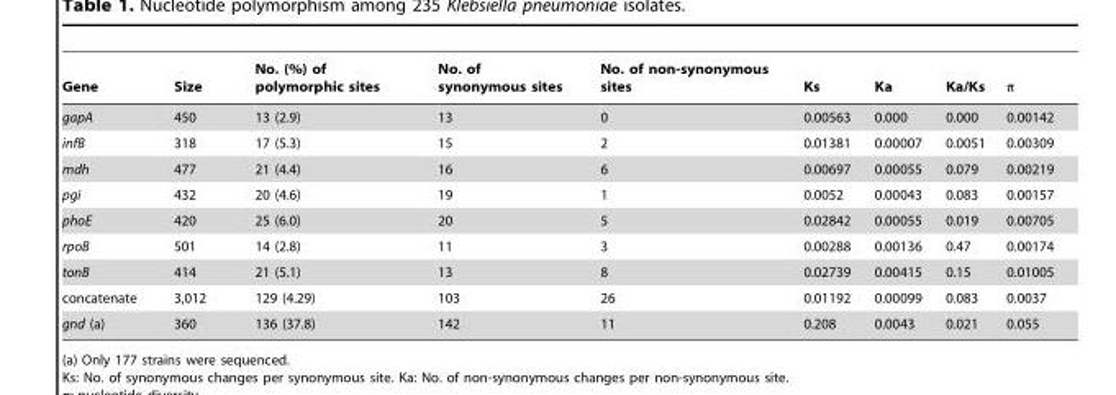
<table><thead><tr><td>Gene</td><td>Size</td><td>No. (%) of polymorphic sites</td><td>No. of synonymous sites</td><td>No. of non-synonymous sites</td><td>Ks</td><td>Ka</td><td>Ka/Ks</td><td>π</td></tr></thead><tbody><tr><td>gapA</td><td>450</td><td>13 (2.9)</td><td>13</td><td>0</td><td>0.00563</td><td>0.000</td><td>0.000</td><td>0.00142</td></tr><tr><td>infB</td><td>318</td><td>17 (5.3)</td><td>15</td><td>2</td><td>0.01381</td><td>0.00007</td><td>0.0051</td><td>0.00309</td></tr><tr><td>mdh</td><td>477</td><td>21 (4.4)</td><td>16</td><td>6</td><td>0.00697</td><td>0.00055</td><td>0.079</td><td>0.00219</td></tr><tr><td>pgi</td><td>432</td><td>20 (4.6)</td><td>19</td><td>1</td><td>0.0052</td><td>0.00043</td><td>0.083</td><td>0.00157</td></tr><tr><td>phoE</td><td>420</td><td>25 (6.0)</td><td>20</td><td>5</td><td>0.02842</td><td>0.00055</td><td>0.019</td><td>0.00705</td></tr><tr><td>rpoB</td><td>501</td><td>14 (2.8)</td><td>11</td><td>3</td><td>0.00288</td><td>0.00136</td><td>0.47</td><td>0.00174</td></tr><tr><td>tonB</td><td>414</td><td>21 (5.1)</td><td>13</td><td>8</td><td>0.02739</td><td>0.00415</td><td>0.15</td><td>0.01005</td></tr><tr><td>concatenate</td><td>3,012</td><td>129 (4.29)</td><td>103</td><td>26</td><td>0.01192</td><td>0.00099</td><td>0.083</td><td>0.0037</td></tr><tr><td>gnd (a)</td><td>360</td><td>136 (37.8)</td><td>142</td><td>11</td><td>0.208</td><td>0.0043</td><td>0.021</td><td>0.055</td></tr></tbody></table>